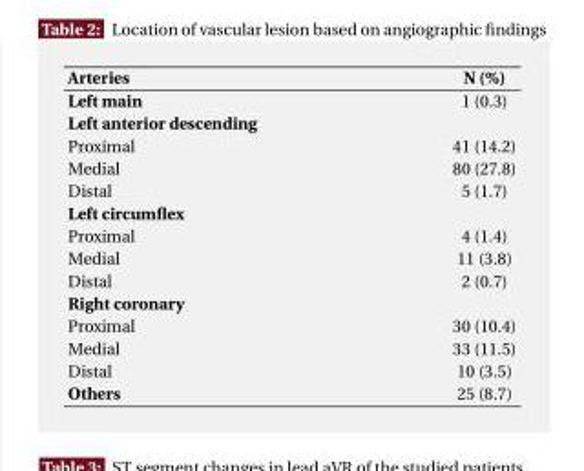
<table><thead><tr><td>Arteries</td><td>N (%)</td></tr></thead><tbody><tr><td>Left main</td><td>1 (0.3)</td></tr><tr><td colspan="2">Left anterior descending</td></tr><tr><td>Proximal</td><td>41 (14.2)</td></tr><tr><td>Medial</td><td>80 (27.8)</td></tr><tr><td>Distal</td><td>5 (1.7)</td></tr><tr><td colspan="2">Left circumflex</td></tr><tr><td>Proximal</td><td>4 (1.4)</td></tr><tr><td>Medial</td><td>11 (3.8)</td></tr><tr><td>Distal</td><td>2 (0.7)</td></tr><tr><td colspan="2">Right coronary</td></tr><tr><td>Proximal</td><td>30 (10.4)</td></tr><tr><td>Medial</td><td>33 (11.5)</td></tr><tr><td>Distal</td><td>10 (3.5)</td></tr><tr><td>Others</td><td>25 (8.7)</td></tr></tbody></table>